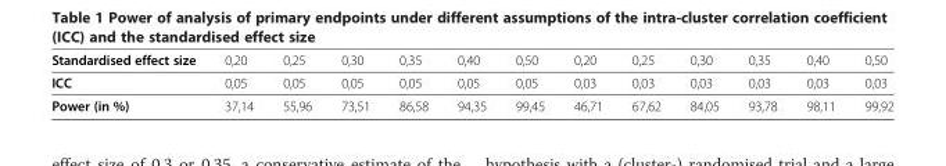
<table><tbody><tr><td>Standardised effect size</td><td>0,20</td><td>0,25</td><td>0,30</td><td>0,35</td><td>0,40</td><td>0,50</td><td>0,20</td><td>0,25</td><td>0,30</td><td>0,35</td><td>0,40</td><td>0,50</td></tr><tr><td>ICC</td><td>0,05</td><td>0,05</td><td>0,05</td><td>0,05</td><td>0,05</td><td>0,05</td><td>0,03</td><td>0,03</td><td>0,03</td><td>0,03</td><td>0,03</td><td>0,03</td></tr><tr><td>Power (in %)</td><td>37,14</td><td>55,96</td><td>73,51</td><td>86,58</td><td>94,35</td><td>99,45</td><td>46,71</td><td>67,62</td><td>84,05</td><td>93,78</td><td>98,11</td><td>99,92</td></tr></tbody></table>